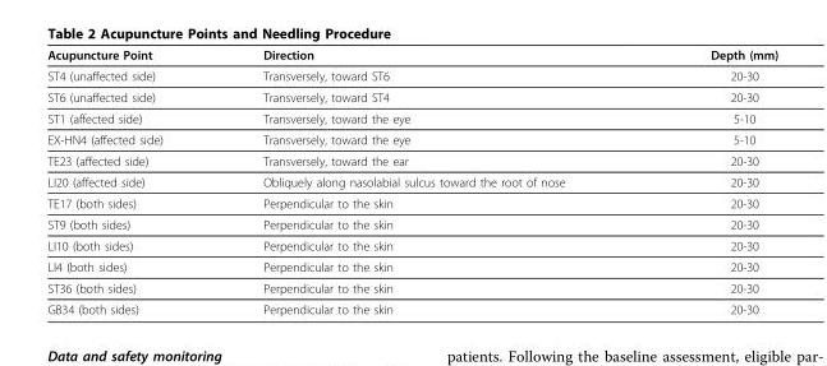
<table><thead><tr><td>Acupuncture Point</td><td>Direction</td><td>Depth (mm)</td></tr></thead><tbody><tr><td>ST4 (unaffected side)</td><td>Transversely, toward ST6</td><td>20-30</td></tr><tr><td>ST6 (unaffected side)</td><td>Transversely, toward ST4</td><td>20-30</td></tr><tr><td>ST1 (affected side)</td><td>Transversely, toward the eye</td><td>5-10</td></tr><tr><td>EX-HN4 (affected side)</td><td>Transversely, toward the eye</td><td>5-10</td></tr><tr><td>TE23 (affected side)</td><td>Transversely, toward the ear</td><td>20-30</td></tr><tr><td>LI20 (affected side)</td><td>Obliquely along nasolabial sulcus toward the root of nose</td><td>20-30</td></tr><tr><td>TE17 (both sides)</td><td>Perpendicular to the skin</td><td>20-30</td></tr><tr><td>ST9 (both sides)</td><td>Perpendicular to the skin</td><td>20-30</td></tr><tr><td>LI10 (both sides)</td><td>Perpendicular to the skin</td><td>20-30</td></tr><tr><td>LI4 (both sides)</td><td>Perpendicular to the skin</td><td>20-30</td></tr><tr><td>ST36 (both sides)</td><td>Perpendicular to the skin</td><td>20-30</td></tr><tr><td>GB34 (both sides)</td><td>Perpendicular to the skin</td><td>20-30</td></tr></tbody></table>